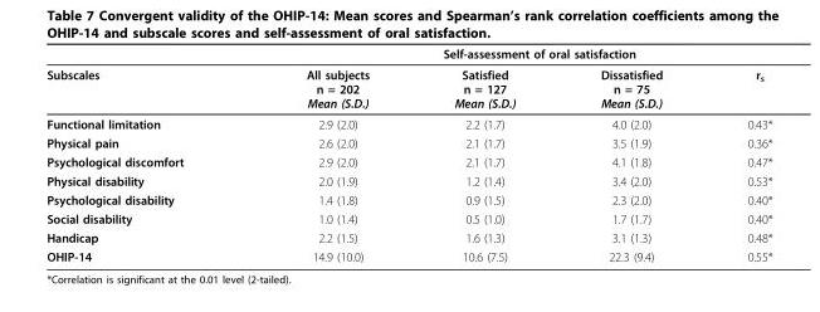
<table><thead><tr><td rowspan="2">Subscales</td><td colspan="4">Self-assessment of oral satisfaction</td></tr><tr><td>All subjects n = 202 Mean (S.D.)</td><td>Satisfied n = 127 Mean (S.D.)</td><td>Dissatisfied n = 75 Mean (S.D.)</td><td>r<sub>s</sub></td></tr></thead><tbody><tr><td>Functional limitation</td><td>2.9 (2.0)</td><td>2.2 (1.7)</td><td>4.0 (2.0)</td><td>0.43*</td></tr><tr><td>Physical pain</td><td>2.6 (2.0)</td><td>2.1 (1.7)</td><td>3.5 (1.9)</td><td>0.36*</td></tr><tr><td>Psychological discomfort</td><td>2.9 (2.0)</td><td>2.1 (1.7)</td><td>4.1 (1.8)</td><td>0.47*</td></tr><tr><td>Physical disability</td><td>2.0 (1.9)</td><td>1.2 (1.4)</td><td>3.4 (2.0)</td><td>0.53*</td></tr><tr><td>Psychological disability</td><td>1.4 (1.8)</td><td>0.9 (1.5)</td><td>2.3 (2.0)</td><td>0.40*</td></tr><tr><td>Social disability</td><td>1.0 (1.4)</td><td>0.5 (1.0)</td><td>1.7 (1.7)</td><td>0.40*</td></tr><tr><td>Handicap</td><td>2.2 (1.5)</td><td>1.6 (1.3)</td><td>3.1 (1.3)</td><td>0.48*</td></tr><tr><td>OHIP-14</td><td>14.9 (10.0)</td><td>10.6 (7.5)</td><td>22.3 (9.4)</td><td>0.55*</td></tr></tbody></table>